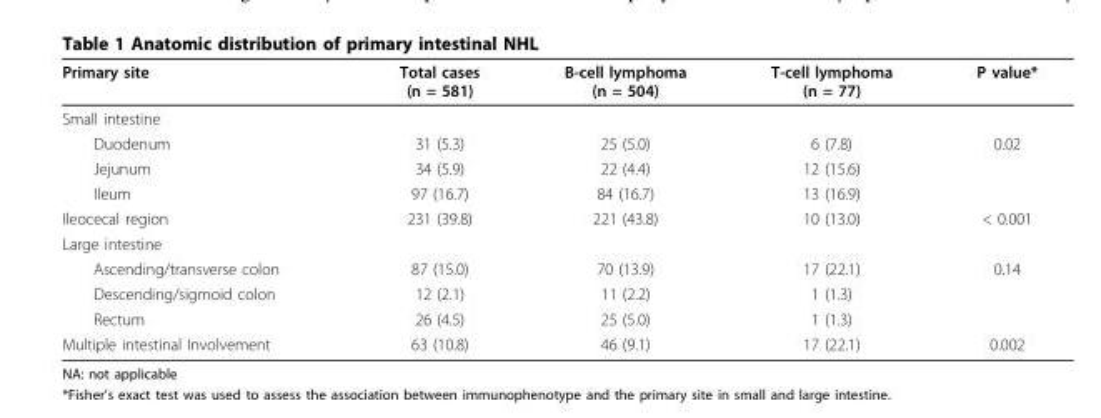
<table><thead><tr><td>Primary site</td><td>Total cases (n = 581)</td><td>B-cell lymphoma (n = 504)</td><td>T-cell lymphoma (n = 77)</td><td>P value*</td></tr></thead><tbody><tr><td colspan="5">Small intestine</td></tr><tr><td>Duodenum</td><td>31 (5.3)</td><td>25 (5.0)</td><td>6 (7.8)</td><td>0.02</td></tr><tr><td>Jejunum</td><td>34 (5.9)</td><td>22 (4.4)</td><td>12 (15.6)</td><td></td></tr><tr><td>Ileum</td><td>97 (16.7)</td><td>84 (16.7)</td><td>13 (16.9)</td><td></td></tr><tr><td>Ileocecal region</td><td>231 (39.8)</td><td>221 (43.8)</td><td>10 (13.0)</td><td>&lt; 0.001</td></tr><tr><td colspan="5">Large intestine</td></tr><tr><td>Ascending/transverse colon</td><td>87 (15.0)</td><td>70 (13.9)</td><td>17 (22.1)</td><td>0.14</td></tr><tr><td>Descending/sigmoid colon</td><td>12 (2.1)</td><td>11 (2.2)</td><td>1 (1.3)</td><td></td></tr><tr><td>Rectum</td><td>26 (4.5)</td><td>25 (5.0)</td><td>1 (1.3)</td><td></td></tr><tr><td>Multiple intestinal Involvement</td><td>63 (10.8)</td><td>46 (9.1)</td><td>17 (22.1)</td><td>0.002</td></tr></tbody></table>